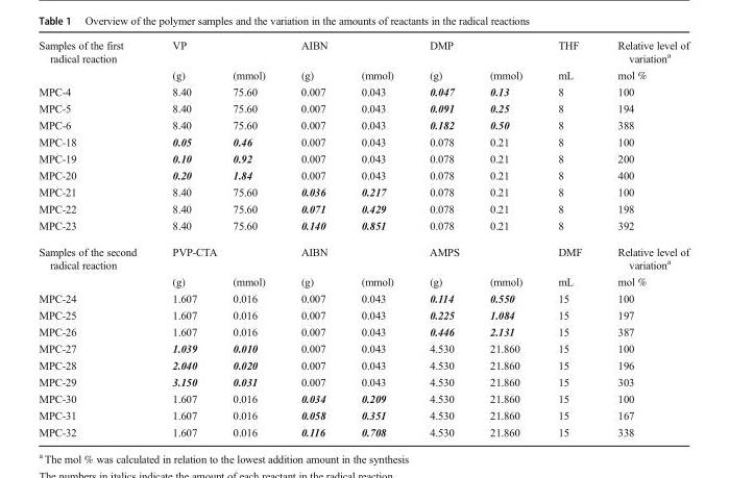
<table><tbody><tr><td rowspan="2">Samples of the first radical reaction</td><td colspan="2">VP</td><td colspan="2">AIBN</td><td colspan="2">DMP</td><td>THF</td><td>Relative level of variation<sup>a</sup></td></tr><tr><td>(g)</td><td>(mmol)</td><td>(g)</td><td>(mmol)</td><td>(g)</td><td>(mmol)</td><td>mL</td><td>mol %</td></tr><tr><td>MPC-4</td><td>8.40</td><td>75.60</td><td>0.007</td><td>0.043</td><td>0.047</td><td>0.13</td><td>8</td><td>100</td></tr><tr><td>MPC-5</td><td>8.40</td><td>75.60</td><td>0.007</td><td>0.043</td><td>0.091</td><td>0.25</td><td>8</td><td>194</td></tr><tr><td>MPC-6</td><td>8.40</td><td>75.60</td><td>0.007</td><td>0.043</td><td>0.182</td><td>0.50</td><td>8</td><td>388</td></tr><tr><td>MPC-18</td><td>0.05</td><td>0.46</td><td>0.007</td><td>0.043</td><td>0.078</td><td>0.21</td><td>8</td><td>100</td></tr><tr><td>MPC-19</td><td>0.10</td><td>0.92</td><td>0.007</td><td>0.043</td><td>0.078</td><td>0.21</td><td>8</td><td>200</td></tr><tr><td>MPC-20</td><td>0.20</td><td>1.84</td><td>0.007</td><td>0.043</td><td>0.078</td><td>0.21</td><td>8</td><td>400</td></tr><tr><td>MPC-21</td><td>8.40</td><td>75.60</td><td>0.036</td><td>0.217</td><td>0.078</td><td>0.21</td><td>8</td><td>100</td></tr><tr><td>MPC-22</td><td>8.40</td><td>75.60</td><td>0.071</td><td>0.429</td><td>0.078</td><td>0.21</td><td>8</td><td>198</td></tr><tr><td>MPC-23</td><td>8.40</td><td>75.60</td><td>0.140</td><td>0.851</td><td>0.078</td><td>0.21</td><td>8</td><td>392</td></tr><tr><td rowspan="2">Samples of the second radical reaction</td><td colspan="2">PVP-CTA</td><td colspan="2">AIBN</td><td colspan="2">AMPS</td><td>DMF</td><td>Relative level of variation<sup>a</sup></td></tr><tr><td>(g)</td><td>(mmol)</td><td>(g)</td><td>(mmol)</td><td>(g)</td><td>(mmol)</td><td>mL</td><td>mol %</td></tr><tr><td>MPC-24</td><td>1.607</td><td>0.016</td><td>0.007</td><td>0.043</td><td>0.114</td><td>0.550</td><td>15</td><td>100</td></tr><tr><td>MPC-25</td><td>1.607</td><td>0.016</td><td>0.007</td><td>0.043</td><td>0.225</td><td>1.084</td><td>15</td><td>197</td></tr><tr><td>MPC-26</td><td>1.607</td><td>0.016</td><td>0.007</td><td>0.043</td><td>0.446</td><td>2.131</td><td>15</td><td>387</td></tr><tr><td>MPC-27</td><td>1.039</td><td>0.010</td><td>0.007</td><td>0.043</td><td>4.530</td><td>21.860</td><td>15</td><td>100</td></tr><tr><td>MPC-28</td><td>2.040</td><td>0.020</td><td>0.007</td><td>0.043</td><td>4.530</td><td>21.860</td><td>15</td><td>196</td></tr><tr><td>MPC-29</td><td>3.150</td><td>0.031</td><td>0.007</td><td>0.043</td><td>4.530</td><td>21.860</td><td>15</td><td>303</td></tr><tr><td>MPC-30</td><td>1.607</td><td>0.016</td><td>0.034</td><td>0.209</td><td>4.530</td><td>21.860</td><td>15</td><td>100</td></tr><tr><td>MPC-31</td><td>1.607</td><td>0.016</td><td>0.058</td><td>0.351</td><td>4.530</td><td>21.860</td><td>15</td><td>167</td></tr><tr><td>MPC-32</td><td>1.607</td><td>0.016</td><td>0.116</td><td>0.708</td><td>4.530</td><td>21.860</td><td>15</td><td>338</td></tr></tbody></table>